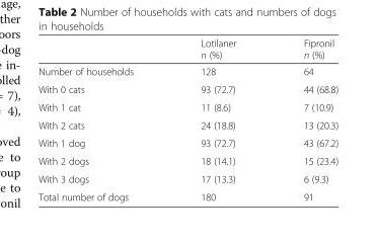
<table><thead><tr><td></td><td>Lotilaner n (%)</td><td>Fipronil n (%)</td></tr></thead><tbody><tr><td>Number of households</td><td>128</td><td>64</td></tr><tr><td>With 0 cats</td><td>93 (72.7)</td><td>44 (68.8)</td></tr><tr><td>With 1 cat</td><td>11 (8.6)</td><td>7 (10.9)</td></tr><tr><td>With 2 cats</td><td>24 (18.8)</td><td>13 (20.3)</td></tr><tr><td>With 1 dog</td><td>93 (72.7)</td><td>43 (67.2)</td></tr><tr><td>With 2 dogs</td><td>18 (14.1)</td><td>15 (23.4)</td></tr><tr><td>With 3 dogs</td><td>17 (13.3)</td><td>6 (9.3)</td></tr><tr><td>Total number of dogs</td><td>180</td><td>91</td></tr></tbody></table>